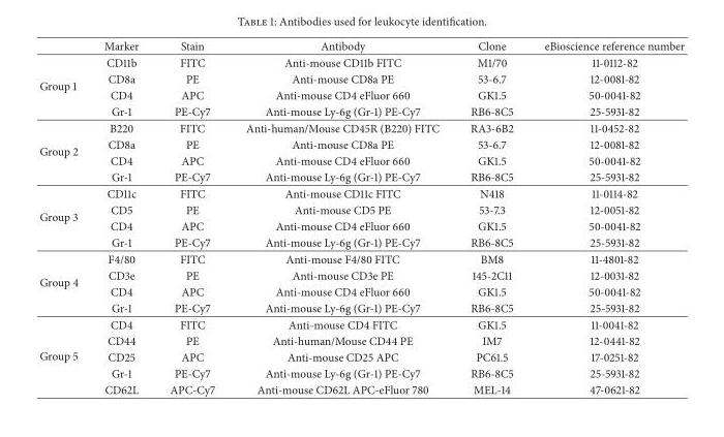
<table><thead><tr><td></td><td>Marker</td><td>Stain</td><td>Antibody</td><td>Clone</td><td>eBioscience reference number</td></tr></thead><tbody><tr><td rowspan="4">Group 1</td><td>CD11b</td><td>FITC</td><td>Anti-mouse CD11b FITC</td><td>M1/70</td><td>11-0112-82</td></tr><tr><td>CD8a</td><td>PE</td><td>Anti-mouse CD8a PE</td><td>53-6.7</td><td>12-0081-82</td></tr><tr><td>CD4</td><td>APC</td><td>Anti-mouse CD4 eFluor 660</td><td>GK1.5</td><td>50-0041-82</td></tr><tr><td>Gr-1</td><td>PE-Cy7</td><td>Anti-mouse Ly-6g (Gr-1) PE-Cy7</td><td>RB6-8C5</td><td>25-5931-82</td></tr><tr><td rowspan="4">Group 2</td><td>B220</td><td>FITC</td><td>Anti-human/Mouse CD45R (B220) FITC</td><td>RA3-6B2</td><td>11-0452-82</td></tr><tr><td>CD8a</td><td>PE</td><td>Anti-mouse CD8a PE</td><td>53-6.7</td><td>12-0081-82</td></tr><tr><td>CD4</td><td>APC</td><td>Anti-mouse CD4 eFluor 660</td><td>GK1.5</td><td>50-0041-82</td></tr><tr><td>Gr-1</td><td>PE-Cy7</td><td>Anti-mouse Ly-6g (Gr-1) PE-Cy7</td><td>RB6-8C5</td><td>25-5931-82</td></tr><tr><td rowspan="4">Group 3</td><td>CD11c</td><td>FITC</td><td>Anti-mouse CD11c FITC</td><td>N418</td><td>11-0114-82</td></tr><tr><td>CD5</td><td>PE</td><td>Anti-mouse CD5 PE</td><td>53-7.3</td><td>12-0051-82</td></tr><tr><td>CD4</td><td>APC</td><td>Anti-mouse CD4 eFluor 660</td><td>GK1.5</td><td>50-0041-82</td></tr><tr><td>Gr-1</td><td>PE-Cy7</td><td>Anti-mouse Ly-6g (Gr-1) PE-Cy7</td><td>RB6-8C5</td><td>25-5931-82</td></tr><tr><td rowspan="4">Group 4</td><td>F4/80</td><td>FITC</td><td>Anti-mouse F4/80 FITC</td><td>BM8</td><td>11-4801-82</td></tr><tr><td>CD3e</td><td>PE</td><td>Anti-mouse CD3e PE</td><td>145-2C11</td><td>12-0031-82</td></tr><tr><td>CD4</td><td>APC</td><td>Anti-mouse CD4 eFluor 660</td><td>GK1.5</td><td>50-0041-82</td></tr><tr><td>Gr-1</td><td>PE-Cy7</td><td>Anti-mouse Ly-6g (Gr-1) PE-Cy7</td><td>RB6-8C5</td><td>25-5931-82</td></tr><tr><td rowspan="5">Group 5</td><td>CD4</td><td>FITC</td><td>Anti-mouse CD4 FITC</td><td>GK1.5</td><td>11-0041-82</td></tr><tr><td>CD44</td><td>PE</td><td>Anti-human/Mouse CD44 PE</td><td>IM7</td><td>12-0441-82</td></tr><tr><td>CD25</td><td>APC</td><td>Anti-mouse CD25 APC</td><td>PC61.5</td><td>17-0251-82</td></tr><tr><td>Gr-1</td><td>PE-Cy7</td><td>Anti-mouse Ly-6g (Gr-1) PE-Cy7</td><td>RB6-8C5</td><td>25-5931-82</td></tr><tr><td>CD62L</td><td>APC-Cy7</td><td>Anti-mouse CD62L APC-eFluor 780</td><td>MEL-14</td><td>47-0621-82</td></tr></tbody></table>